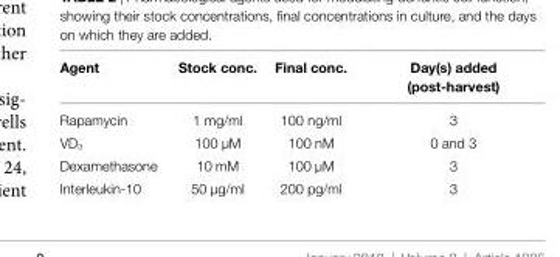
<table><thead><tr><td>Agent</td><td>stock conc.</td><td>Final conc.</td><td>Day(s) added (post-harvest)</td></tr></thead><tbody><tr><td>Rapamycin</td><td>1 mg/ml</td><td>100 ng/ml</td><td>3</td></tr><tr><td>VD<sub>3</sub></td><td>100 µM</td><td>100 nM</td><td>0 and 3</td></tr><tr><td>Dexamethasone</td><td>10 mM</td><td>100 µM</td><td>3</td></tr><tr><td>Interleukin-10</td><td>50 µg/ml</td><td>200 pg/ml</td><td>3</td></tr></tbody></table>